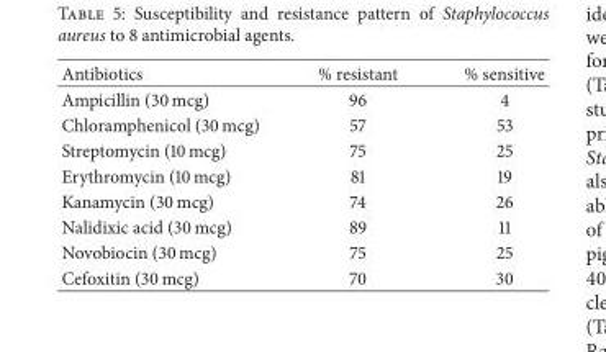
<table><thead><tr><td>Antibiotics</td><td>% resistant</td><td>% sensitive</td></tr></thead><tbody><tr><td>Ampicillin (30 mcg)</td><td>96</td><td>4</td></tr><tr><td>Chloramphenicol (30 mcg)</td><td>57</td><td>53</td></tr><tr><td>Streptomycin (10 mcg)</td><td>75</td><td>25</td></tr><tr><td>Erythromycin (10 mcg)</td><td>81</td><td>19</td></tr><tr><td>Kanamycin (30 mcg)</td><td>74</td><td>26</td></tr><tr><td>Nalidixic acid (30 mcg)</td><td>89</td><td>11</td></tr><tr><td>Novobiocin (30 mcg)</td><td>75</td><td>25</td></tr><tr><td>Cefoxitin (30 mcg)</td><td>70</td><td>30</td></tr></tbody></table>